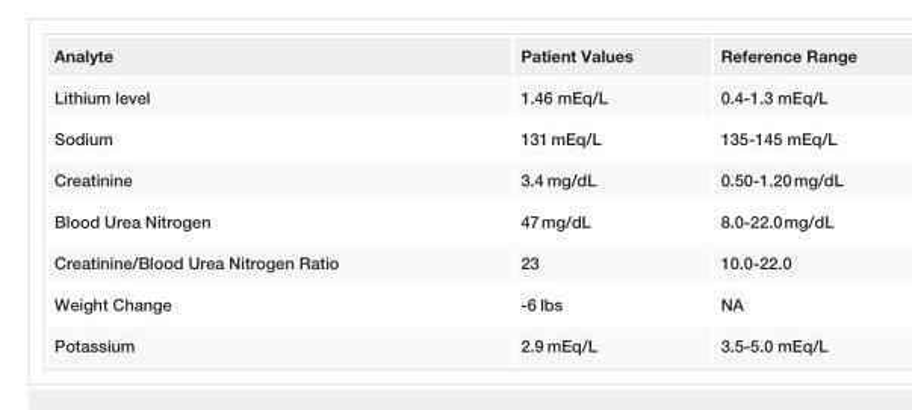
<table><tbody><tr><td>Analyte</td><td>Patient Values</td><td>Reference Range</td></tr><tr><td>Lithium level</td><td>1.46 mEq/L</td><td>0.4-1.3 mEq/L</td></tr><tr><td>Sodium</td><td>131 mEq/L</td><td>135-145 mEq/L</td></tr><tr><td>Creatinine</td><td>3.4 mg/dL</td><td>0.50-1.20 mg/dL</td></tr><tr><td>Blood Urea Nitrogen</td><td>47 mg/dL</td><td>8.0-22.0 mg/dL</td></tr><tr><td>Creatinine/Blood Urea Nitrogen Ratio</td><td>23</td><td>10.0-22.0</td></tr><tr><td>Weight Change</td><td>-6 lbs</td><td>NA</td></tr><tr><td>Potassium</td><td>2.9 mEq/L</td><td>3.5-5.0 mEq/L</td></tr></tbody></table>